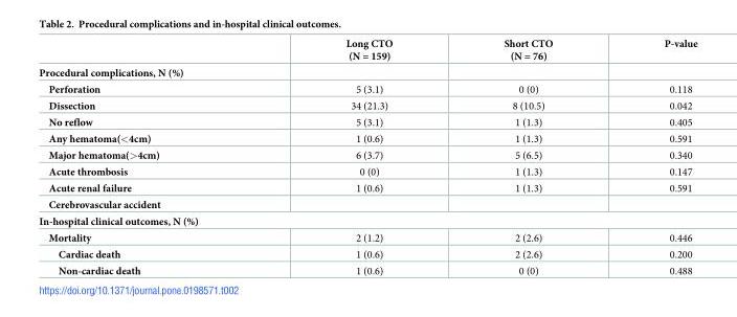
<table><thead><tr><td></td><td>Long CTO (N = 159)</td><td>Short CTO (N = 76)</td><td>P-value</td></tr></thead><tbody><tr><td colspan="4">Procedural complications, N (%)</td></tr><tr><td>Perforation</td><td>5 (3.1)</td><td>0 (0)</td><td>0.118</td></tr><tr><td>Dissection</td><td>34 (21.3)</td><td>8 (10.5)</td><td>0.042</td></tr><tr><td>No reflow</td><td>5 (3.1)</td><td>1 (1.3)</td><td>0.405</td></tr><tr><td>Any hematoma(&lt;4cm)</td><td>1 (0.6)</td><td>1 (1.3)</td><td>0.591</td></tr><tr><td>Major hematoma(&gt;4cm)</td><td>6 (3.7)</td><td>5 (6.5)</td><td>0.340</td></tr><tr><td>Acute thrombosis</td><td>0 (0)</td><td>1 (1.3)</td><td>0.147</td></tr><tr><td>Acute renal failure</td><td>1 (0.6)</td><td>1 (1.3)</td><td>0.591</td></tr><tr><td colspan="4">Cerebrovascular accident</td></tr><tr><td colspan="4">In-hospital clinical outcomes, N (%)</td></tr><tr><td>Mortality</td><td>2 (1.2)</td><td>2 (2.6)</td><td>0.446</td></tr><tr><td>Cardiac death</td><td>1 (0.6)</td><td>2 (2.6)</td><td>0.200</td></tr><tr><td>Non-cardiac death</td><td>1 (0.6)</td><td>0 (0)</td><td>0.488</td></tr></tbody></table>